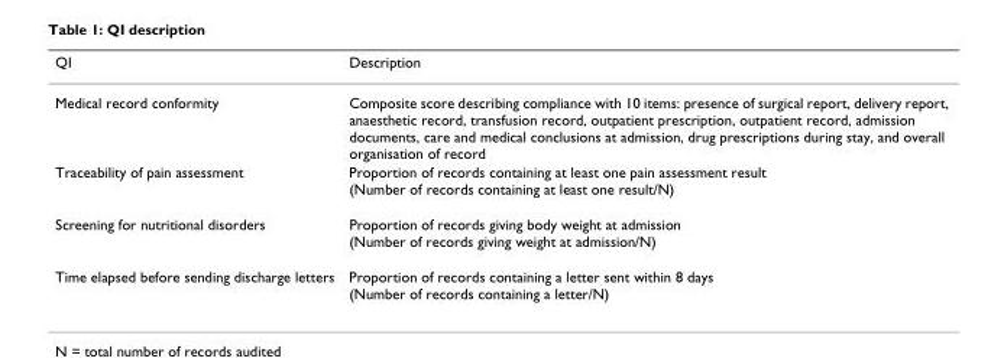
<table><thead><tr><td>QI</td><td>Description</td></tr></thead><tbody><tr><td>Medical record conformity</td><td>Composite score describing compliance with 10 items: presence of surgical report, delivery report, anaesthetic record, transfusion record, outpatient prescription, outpatient record, admission documents, care and medical conclusions at admission, drug prescriptions during stay, and overall organisation of record</td></tr><tr><td>Traceability of pain assessment</td><td>Proportion of records containing at least one pain assessment result (Number of records containing at least one result/N)</td></tr><tr><td>Screening for nutritional disorders</td><td>Proportion of records giving body weight at admission (Number of records giving weight at admission/N)</td></tr><tr><td>Time elapsed before sending discharge letters</td><td>Proportion of records containing a letter sent within 8 days (Number of records containing a letter/N)</td></tr></tbody></table>